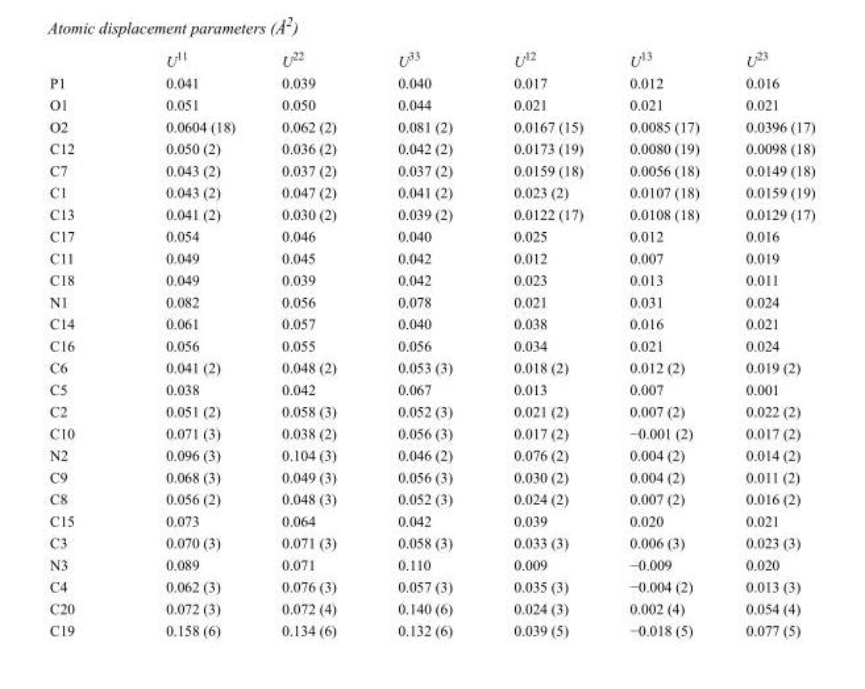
<table><thead><tr><td></td><td>U<sup>11</sup></td><td>U<sup>22</sup></td><td>U<sup>33</sup></td><td>U<sup>12</sup></td><td>U<sup>13</sup></td><td>U<sup>23</sup></td></tr></thead><tbody><tr><td>P1</td><td>0.041</td><td>0.039</td><td>0.040</td><td>0.017</td><td>0.012</td><td>0.016</td></tr><tr><td>O1</td><td>0.051</td><td>0.050</td><td>0.044</td><td>0.021</td><td>0.021</td><td>0.021</td></tr><tr><td>O2</td><td>0.0604 (18)</td><td>0.062 (2)</td><td>0.081 (2)</td><td>0.0167 (15)</td><td>0.0085 (17)</td><td>0.0396 (17)</td></tr><tr><td>C12</td><td>0.050 (2)</td><td>0.036 (2)</td><td>0.042 (2)</td><td>0.0173 (19)</td><td>0.0080 (19)</td><td>0.0098 (18)</td></tr><tr><td>C7</td><td>0.043 (2)</td><td>0.037 (2)</td><td>0.037 (2)</td><td>0.0159 (18)</td><td>0.0056 (18)</td><td>0.0149 (18)</td></tr><tr><td>C1</td><td>0.043 (2)</td><td>0.047 (2)</td><td>0.041 (2)</td><td>0.023 (2)</td><td>0.0107 (18)</td><td>0.0159 (19)</td></tr><tr><td>C13</td><td>0.041 (2)</td><td>0.030 (2)</td><td>0.039 (2)</td><td>0.0122 (17)</td><td>0.0108 (18)</td><td>0.0129 (17)</td></tr><tr><td>C17</td><td>0.054</td><td>0.046</td><td>0.040</td><td>0.025</td><td>0.012</td><td>0.016</td></tr><tr><td>C11</td><td>0.049</td><td>0.045</td><td>0.042</td><td>0.012</td><td>0.007</td><td>0.019</td></tr><tr><td>C18</td><td>0.049</td><td>0.039</td><td>0.042</td><td>0.023</td><td>0.013</td><td>0.011</td></tr><tr><td>N1</td><td>0.082</td><td>0.056</td><td>0.078</td><td>0.021</td><td>0.031</td><td>0.024</td></tr><tr><td>C14</td><td>0.061</td><td>0.057</td><td>0.040</td><td>0.038</td><td>0.016</td><td>0.021</td></tr><tr><td>C16</td><td>0.056</td><td>0.055</td><td>0.056</td><td>0.034</td><td>0.021</td><td>0.024</td></tr><tr><td>C6</td><td>0.041 (2)</td><td>0.048 (2)</td><td>0.053 (3)</td><td>0.018 (2)</td><td>0.012 (2)</td><td>0.019 (2)</td></tr><tr><td>C5</td><td>0.038</td><td>0.042</td><td>0.067</td><td>0.013</td><td>0.007</td><td>0.001</td></tr><tr><td>C2</td><td>0.051 (2)</td><td>0.058 (3)</td><td>0.052 (3)</td><td>0.021 (2)</td><td>0.007 (2)</td><td>0.022 (2)</td></tr><tr><td>C10</td><td>0.071 (3)</td><td>0.038 (2)</td><td>0.056 (3)</td><td>0.017 (2)</td><td>−0.001 (2)</td><td>0.017 (2)</td></tr><tr><td>N2</td><td>0.096 (3)</td><td>0.104 (3)</td><td>0.046 (2)</td><td>0.076 (2)</td><td>0.004 (2)</td><td>0.014 (2)</td></tr><tr><td>C9</td><td>0.068 (3)</td><td>0.049 (3)</td><td>0.056 (3)</td><td>0.030 (2)</td><td>0.004 (2)</td><td>0.011 (2)</td></tr><tr><td>C8</td><td>0.056 (2)</td><td>0.048 (3)</td><td>0.052 (3)</td><td>0.024 (2)</td><td>0.007 (2)</td><td>0.016 (2)</td></tr><tr><td>C15</td><td>0.073</td><td>0.064</td><td>0.042</td><td>0.039</td><td>0.020</td><td>0.021</td></tr><tr><td>C3</td><td>0.070 (3)</td><td>0.071 (3)</td><td>0.058 (3)</td><td>0.033 (3)</td><td>0.006 (3)</td><td>0.023 (3)</td></tr><tr><td>N3</td><td>0.089</td><td>0.071</td><td>0.110</td><td>0.009</td><td>−0.009</td><td>0.020</td></tr><tr><td>C4</td><td>0.062 (3)</td><td>0.076 (3)</td><td>0.057 (3)</td><td>0.035 (3)</td><td>−0.004 (2)</td><td>0.013 (3)</td></tr><tr><td>C20</td><td>0.072 (3)</td><td>0.072 (4)</td><td>0.140 (6)</td><td>0.024 (3)</td><td>0.002 (4)</td><td>0.054 (4)</td></tr><tr><td>C19</td><td>0.158 (6)</td><td>0.134 (6)</td><td>0.132 (6)</td><td>0.039 (5)</td><td>−0.018 (5)</td><td>0.077 (5)</td></tr></tbody></table>